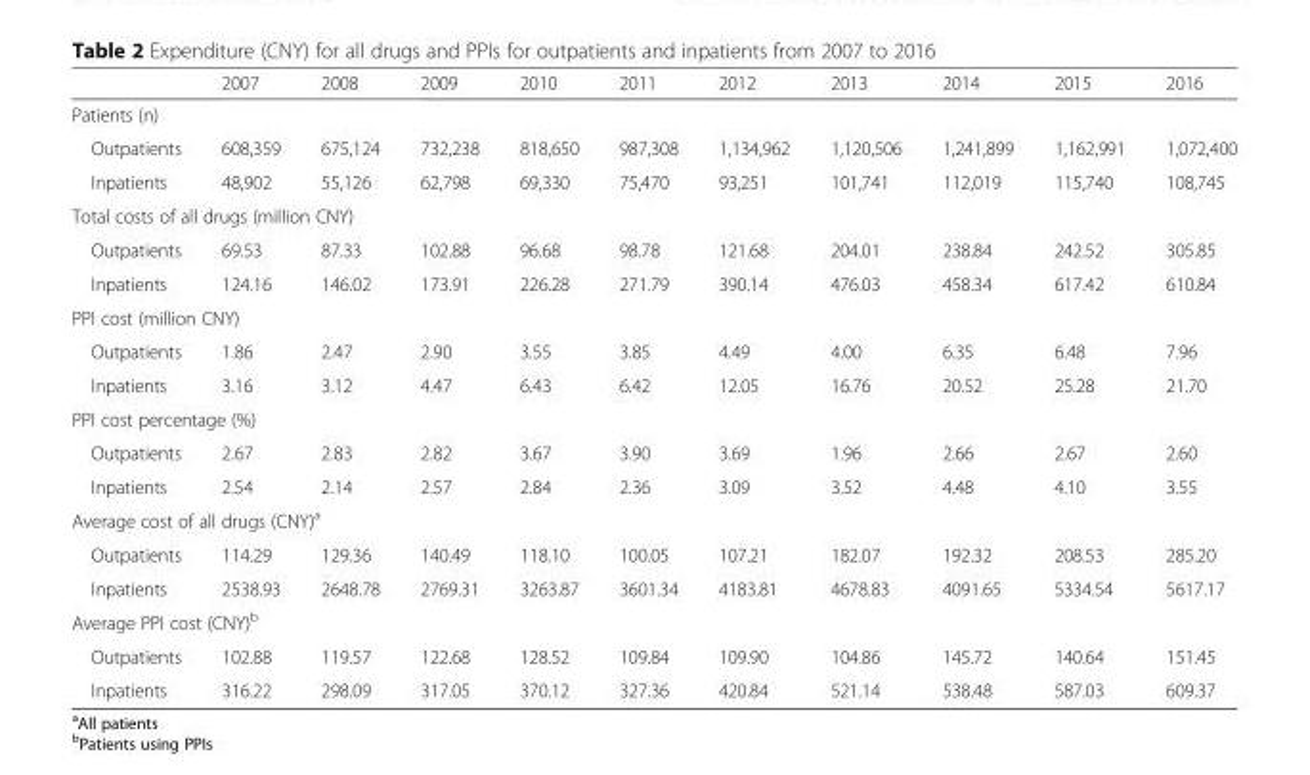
<table><thead><tr><td></td><td>2007</td><td>2008</td><td>2009</td><td>2010</td><td>2011</td><td>2012</td><td>2013</td><td>2014</td><td>2015</td><td>2016</td></tr></thead><tbody><tr><td colspan="11">Patients (n)</td></tr><tr><td>Outpatients</td><td>608,359</td><td>675,124</td><td>732,238</td><td>818,650</td><td>987,308</td><td>1,134,962</td><td>1,120,506</td><td>1,241,899</td><td>1,162,991</td><td>1,072,400</td></tr><tr><td>Inpatients</td><td>48,902</td><td>55,126</td><td>62,798</td><td>69,330</td><td>75,470</td><td>93,251</td><td>101,741</td><td>112,019</td><td>115,740</td><td>108,745</td></tr><tr><td colspan="11">Total costs of all drugs (million CNY)</td></tr><tr><td>Outpatients</td><td>69.53</td><td>87.33</td><td>102.88</td><td>96.68</td><td>98.78</td><td>121.68</td><td>204.01</td><td>238.84</td><td>242.52</td><td>305.85</td></tr><tr><td>Inpatients</td><td>124.16</td><td>146.02</td><td>173.91</td><td>226.28</td><td>271.79</td><td>390.14</td><td>476.03</td><td>458.34</td><td>617.42</td><td>610.84</td></tr><tr><td colspan="11">PPI cost (million CNY)</td></tr><tr><td>Outpatients</td><td>1.86</td><td>2.47</td><td>2.90</td><td>3.55</td><td>3.85</td><td>4.49</td><td>4.00</td><td>6.35</td><td>6.48</td><td>7.96</td></tr><tr><td>Inpatients</td><td>3.16</td><td>3.12</td><td>4.47</td><td>6.43</td><td>6.42</td><td>12.05</td><td>16.76</td><td>20.52</td><td>25.28</td><td>21.70</td></tr><tr><td colspan="11">PPI cost percentage (%)</td></tr><tr><td>Outpatients</td><td>2.67</td><td>2.83</td><td>2.82</td><td>3.67</td><td>3.90</td><td>3.69</td><td>1.96</td><td>2.66</td><td>2.67</td><td>2.60</td></tr><tr><td>Inpatients</td><td>2.54</td><td>2.14</td><td>2.57</td><td>2.84</td><td>2.36</td><td>3.09</td><td>3.52</td><td>4.48</td><td>4.10</td><td>3.55</td></tr><tr><td colspan="11">Average cost of all drugs (CNY)<sup>a</sup></td></tr><tr><td>Outpatients</td><td>114.29</td><td>129.36</td><td>140.49</td><td>118.10</td><td>100.05</td><td>107.21</td><td>182.07</td><td>192.32</td><td>208.53</td><td>285.20</td></tr><tr><td>Inpatients</td><td>2538.93</td><td>2648.78</td><td>2769.31</td><td>3263.87</td><td>3601.34</td><td>4183.81</td><td>4678.83</td><td>4091.65</td><td>5334.54</td><td>5617.17</td></tr><tr><td colspan="11">Average PPI cost (CNY)<sup>b</sup></td></tr><tr><td>Outpatients</td><td>102.88</td><td>119.57</td><td>122.68</td><td>128.52</td><td>109.84</td><td>109.90</td><td>104.86</td><td>145.72</td><td>140.64</td><td>151.45</td></tr><tr><td>Inpatients</td><td>316.22</td><td>298.09</td><td>317.05</td><td>370.12</td><td>327.36</td><td>420.84</td><td>521.14</td><td>538.48</td><td>587.03</td><td>609.37</td></tr></tbody></table>